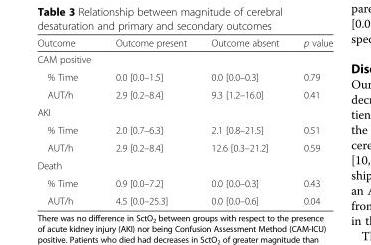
<table><thead><tr><td>Outcome</td><td>Outcome present</td><td>Outcome absent</td><td>p value</td></tr></thead><tbody><tr><td colspan="4">CAM positive</td></tr><tr><td>% Time</td><td>0.0 [0.0–1.5]</td><td>0.0 [0.0–0.3]</td><td>0.79</td></tr><tr><td>AUT/h</td><td>2.9 [0.2–8.4]</td><td>9.3 [1.2–16.0]</td><td>0.41</td></tr><tr><td colspan="4">AKI</td></tr><tr><td>% Time</td><td>2.0 [0.7–6.3]</td><td>2.1 [0.8–21.5]</td><td>0.51</td></tr><tr><td>AUT/h</td><td>2.9 [0.2–8.4]</td><td>12.6 [0.3–21.2]</td><td>0.59</td></tr><tr><td colspan="4">Death</td></tr><tr><td>% Time</td><td>0.9 [0.0–7.2]</td><td>0.0 [0.0–0.3]</td><td>0.43</td></tr><tr><td>AUT/h</td><td>4.5 [0.0–25.3]</td><td>0.0 [0.0–0.6]</td><td>0.04</td></tr></tbody></table>